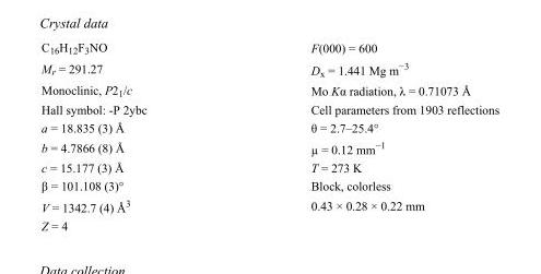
<table><tbody><tr><td>C<sub>16</sub>H<sub>12</sub>F<sub>3</sub>NO</td><td>F(000) = 600</td></tr><tr><td>M<sub>r</sub> = 291.27</td><td>D<sub>x</sub> = 1.441 Mg m<sup>−3</sup></td></tr><tr><td>Monoclinic, P2<sub>1</sub>/c</td><td>Mo Kα radiation, λ = 0.71073 Å</td></tr><tr><td>Hall symbol: -P 2ybc</td><td>Cell parameters from 1903 reflections</td></tr><tr><td>a = 18.835 (3) Å</td><td>θ = 2.7–25.4°</td></tr><tr><td>b = 4.7866 (8) Å</td><td>µ = 0.12 mm<sup>−1</sup></td></tr><tr><td>c = 15.177 (3) Å</td><td>T = 273 K</td></tr><tr><td>β = 101.108 (3)°</td><td>Block, colorless</td></tr><tr><td>V = 1342.7 (4) Å<sup>3</sup></td><td>0.43 × 0.28 × 0.22 mm</td></tr><tr><td>Z = 4</td><td></td></tr></tbody></table>